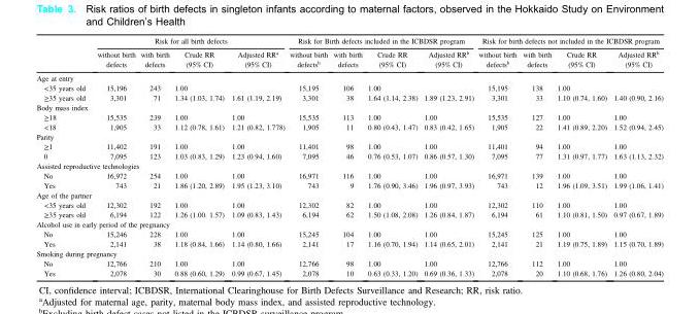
<table><thead><tr><td rowspan="2"></td><td colspan="4">Risk for all birth defects</td><td colspan="4">Risk for Birth defects included in the ICBDSR program</td><td colspan="4">Risk for birth defects not included in the ICBDSR program</td></tr><tr><td>without birth defects</td><td>with birth defects</td><td>Crude RR (95% CI)</td><td>Adjusted RR<sup>a</sup> (95% CI)</td><td>without birth defects<sup>b</sup></td><td>with birth defects</td><td>Crude RR (95% CI)</td><td>Adjusted RR<sup>b</sup> (95% CI)</td><td>without birth defects<sup>b</sup></td><td>with birth defects</td><td>Crude RR (95% CI)</td><td>Adjusted RR<sup>b</sup> (95% CI)</td></tr></thead><tbody><tr><td colspan="13">Age at entry</td></tr><tr><td>&lt;35 years old</td><td>15,196</td><td>243</td><td>1.00</td><td></td><td>15,195</td><td>106</td><td>1.00</td><td></td><td>15,195</td><td>138</td><td>1.00</td><td></td></tr><tr><td>≥35 years old</td><td>3,301</td><td>71</td><td>1.34 (1.03, 1.74)</td><td>1.61 (1.19, 2.19)</td><td>3,301</td><td>38</td><td>1.64 (1.14, 2.38)</td><td>1.89 (1.23, 2.91)</td><td>3,301</td><td>33</td><td>1.10 (0.74, 1.60)</td><td>1.40 (0.90, 2.16)</td></tr><tr><td colspan="13">Body mass index</td></tr><tr><td>≥18</td><td>15,535</td><td>239</td><td>1.00</td><td>1.00</td><td>15,535</td><td>113</td><td>1.00</td><td>1.00</td><td>15,535</td><td>127</td><td>1.00</td><td>1.00</td></tr><tr><td>&lt;18</td><td>1,905</td><td>33</td><td>1.12 (0.78, 1.61)</td><td>1.21 (0.82, 1.778)</td><td>1,905</td><td>11</td><td>0.80 (0.43, 1.47)</td><td>0.83 (0.42, 1.65)</td><td>1,905</td><td>22</td><td>1.41 (0.89, 2.20)</td><td>1.52 (0.94, 2.45)</td></tr><tr><td colspan="13">Parity</td></tr><tr><td>≥1</td><td>11,402</td><td>191</td><td>1.00</td><td>1.00</td><td>11,401</td><td>98</td><td>1.00</td><td>1.00</td><td>11,401</td><td>94</td><td>1.00</td><td>1.00</td></tr><tr><td>0</td><td>7,095</td><td>123</td><td>1.03 (0.83, 1.29)</td><td>1.23 (0.94, 1.60)</td><td>7,095</td><td>46</td><td>0.76 (0.53, 1.07)</td><td>0.86 (0.57, 1.30)</td><td>7,095</td><td>77</td><td>1.31 (0.97, 1.77)</td><td>1.63 (1.13, 2.32)</td></tr><tr><td colspan="13">Assisted reproductive technologies</td></tr><tr><td>No</td><td>16,972</td><td>254</td><td>1.00</td><td>1.00</td><td>16,971</td><td>116</td><td>1.00</td><td>1.00</td><td>16,971</td><td>139</td><td>1.00</td><td>1.00</td></tr><tr><td>Yes</td><td>743</td><td>21</td><td>1.86 (1.20, 2.89)</td><td>1.95 (1.23, 3.10)</td><td>743</td><td>9</td><td>1.76 (0.90, 3.46)</td><td>1.96 (0.97, 3.93)</td><td>743</td><td>12</td><td>1.96 (1.09, 3.51)</td><td>1.99 (1.06, 1.41)</td></tr><tr><td colspan="13">Age of the partner</td></tr><tr><td>&lt;35 years old</td><td>12,302</td><td>192</td><td>1.00</td><td>1.00</td><td>12,302</td><td>82</td><td>1.00</td><td>1.00</td><td>12,302</td><td>110</td><td>1.00</td><td>1.00</td></tr><tr><td>≥35 years old</td><td>6,194</td><td>122</td><td>1.26 (1.00. 1.57)</td><td>1.09 (0.83, 1.43)</td><td>6,194</td><td>62</td><td>1.50 (1.08, 2.08)</td><td>1.26 (0.84, 1.87)</td><td>6,194</td><td>61</td><td>1.10 (0.81, 1.50)</td><td>0.97 (0.67, 1.89)</td></tr><tr><td colspan="13">Alcohol use in early period of the pregnancy</td></tr><tr><td>No</td><td>15,246</td><td>228</td><td>1.00</td><td>1.00</td><td>15,245</td><td>104</td><td>1.00</td><td>1.00</td><td>15,245</td><td>125</td><td>1.00</td><td>1.00</td></tr><tr><td>Yes</td><td>2,141</td><td>38</td><td>1.18 (0.84, 1.66)</td><td>1.14 (0.80, 1.66)</td><td>2,141</td><td>17</td><td>1.16 (0.70, 1.94)</td><td>1.14 (0.65, 2.01)</td><td>2,141</td><td>21</td><td>1.19 (0.75, 1.89)</td><td>1.15 (0.70, 1.89)</td></tr><tr><td colspan="13">Smoking during pregnancy</td></tr><tr><td>No</td><td>12,766</td><td>210</td><td>1.00</td><td>1.00</td><td>12,766</td><td>98</td><td>1.00</td><td>1.00</td><td>12,766</td><td>112</td><td>1.00</td><td>1.00</td></tr><tr><td>Yes</td><td>2,078</td><td>30</td><td>0.88 (0.60, 1.29)</td><td>0.99 (0.67, 1.45)</td><td>2,078</td><td>10</td><td>0.63 (0.33, 1.20)</td><td>0.69 (0.36, 1.33)</td><td>2,078</td><td>20</td><td>1.10 (0.68, 1.76)</td><td>1.26 (0.80, 2.04)</td></tr></tbody></table>